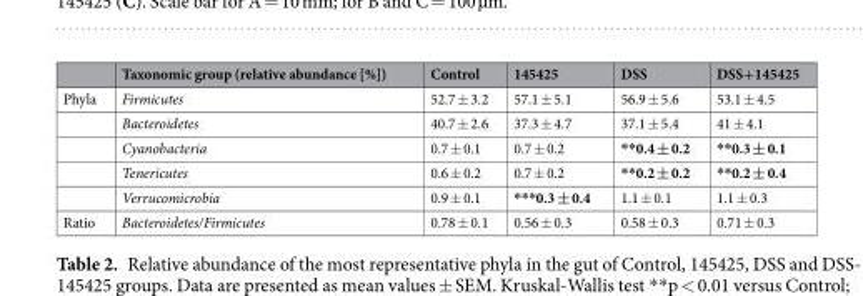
<table><thead><tr><td></td><td>Taxonomic group (relative abundance [%])</td><td>Control</td><td>145425</td><td>DSS</td><td>DSS+145425</td></tr></thead><tbody><tr><td rowspan="5">Phyla</td><td>Firmicutes</td><td>52.7 ± 3.2</td><td>57.1 ± 5.1</td><td>56.9 ± 5.6</td><td>53.1 ± 4.5</td></tr><tr><td>Bacteroidetes</td><td>40.7 ± 2.6</td><td>37.3 ± 4.7</td><td>37.1 ± 5.4</td><td>41 ± 4.1</td></tr><tr><td>Cyanobacteria</td><td>0.7 ± 0.1</td><td>0.7 ± 0.2</td><td>**0.4 ± 0.2</td><td>**0.3 ± 0.1</td></tr><tr><td>Tenericutes</td><td>0.6 ± 0.2</td><td>0.7 ± 0.2</td><td>**0.2 ± 0.2</td><td>**0.2 ± 0.4</td></tr><tr><td>Verrucomicrobia</td><td>0.9 ± 0.1</td><td>***0.3 ± 0.4</td><td>1.1 ± 0.1</td><td>1.1 ± 0.3</td></tr><tr><td>Ratio</td><td>Bacteroidetes/Firmicutes</td><td>0.78 ± 0.1</td><td>0.56 ± 0.3</td><td>0.58 ± 0.3</td><td>0.71 ± 0.3</td></tr></tbody></table>